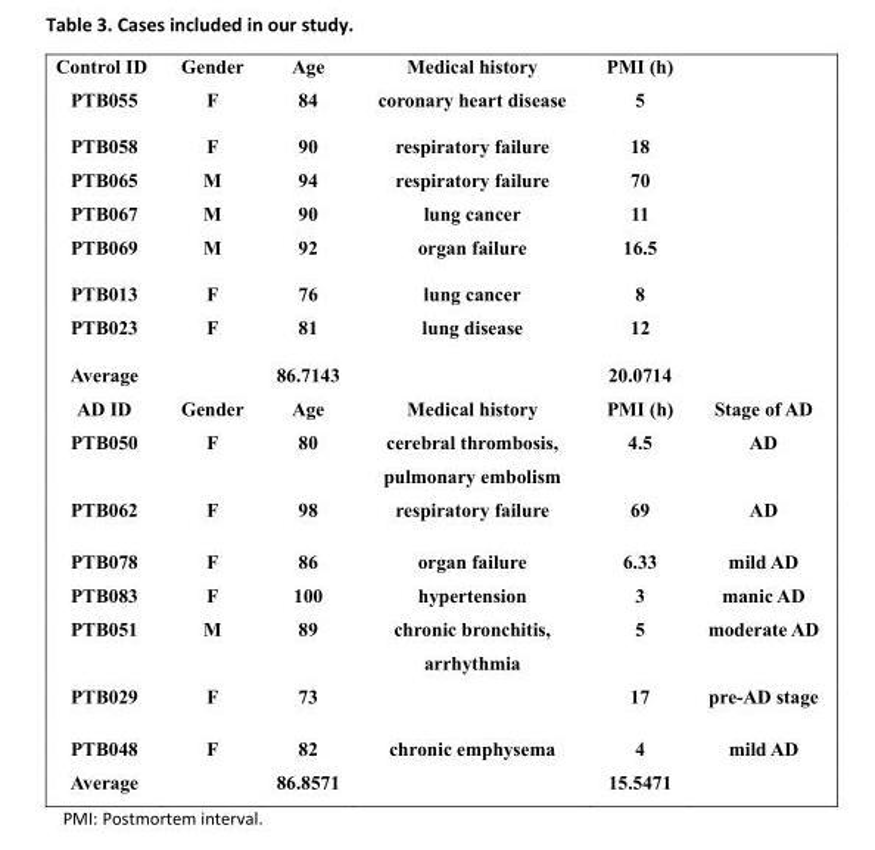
<table><tbody><tr><td>Control ID</td><td>Gender</td><td>Age</td><td>Medical history</td><td>PMI (h)</td><td></td></tr><tr><td>PTB055</td><td>F</td><td>84</td><td>coronary heart disease</td><td>5</td><td></td></tr><tr><td>PTB058</td><td>F</td><td>90</td><td>respiratory failure</td><td>18</td><td></td></tr><tr><td>PTB065</td><td>M</td><td>94</td><td>respiratory failure</td><td>70</td><td></td></tr><tr><td>PTB067</td><td>M</td><td>90</td><td>lung cancer</td><td>11</td><td></td></tr><tr><td>PTB069</td><td>M</td><td>92</td><td>organ failure</td><td>16.5</td><td></td></tr><tr><td>PTB013</td><td>F</td><td>76</td><td>lung cancer</td><td>8</td><td></td></tr><tr><td>PTB023</td><td>F</td><td>81</td><td>lung disease</td><td>12</td><td></td></tr><tr><td>Average</td><td></td><td>86.7143</td><td></td><td>20.0714</td><td></td></tr><tr><td>AD ID</td><td>Gender</td><td>Age</td><td>Medical history</td><td>PMI (h)</td><td>Stage of AD</td></tr><tr><td>PTB050</td><td>F</td><td>80</td><td>cerebral thrombosis, pulmonary embolism</td><td>4.5</td><td>AD</td></tr><tr><td>PTB062</td><td>F</td><td>98</td><td>respiratory failure</td><td>69</td><td>AD</td></tr><tr><td>PTB078</td><td>F</td><td>86</td><td>organ failure</td><td>6.33</td><td>mild AD</td></tr><tr><td>PTB083</td><td>F</td><td>100</td><td>hypertension</td><td>3</td><td>manic AD</td></tr><tr><td>PTB051</td><td>M</td><td>89</td><td>chronic bronchitis, arrhythmia</td><td>5</td><td>moderate AD</td></tr><tr><td>PTB029</td><td>F</td><td>73</td><td></td><td>17</td><td>pre-AD stage</td></tr><tr><td>PTB048</td><td>F</td><td>82</td><td>chronic emphysema</td><td>4</td><td>mild AD</td></tr><tr><td>Average</td><td></td><td>86.8571</td><td></td><td>15.5471</td><td></td></tr></tbody></table>